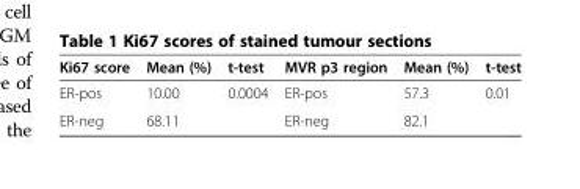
<table><thead><tr><td>Ki67 score</td><td>Mean (%)</td><td>t-test</td><td>MVR p3 region</td><td>Mean (%)</td><td>t-test</td></tr></thead><tbody><tr><td>ER-pos</td><td>10.00</td><td>0.0004</td><td>ER-pos</td><td>57.3</td><td>0.01</td></tr><tr><td>ER-neg</td><td>68.11</td><td></td><td>ER-neg</td><td>82.1</td><td></td></tr></tbody></table>